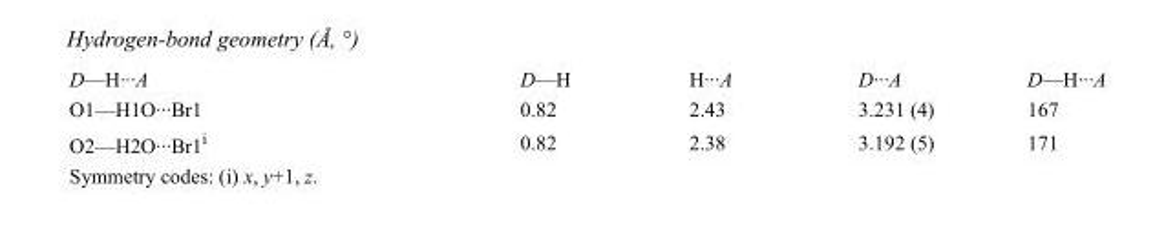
<table><tbody><tr><td>D—H···A</td><td>D—H</td><td>H···A</td><td>D···A</td><td>D—H···A</td></tr><tr><td>O1—H1O···Br1</td><td>0.82</td><td>2.43</td><td>3.231 (4)</td><td>167</td></tr><tr><td>O2—H2O···Br1<sup>i</sup></td><td>0.82</td><td>2.38</td><td>3.192 (5)</td><td>171</td></tr></tbody></table>